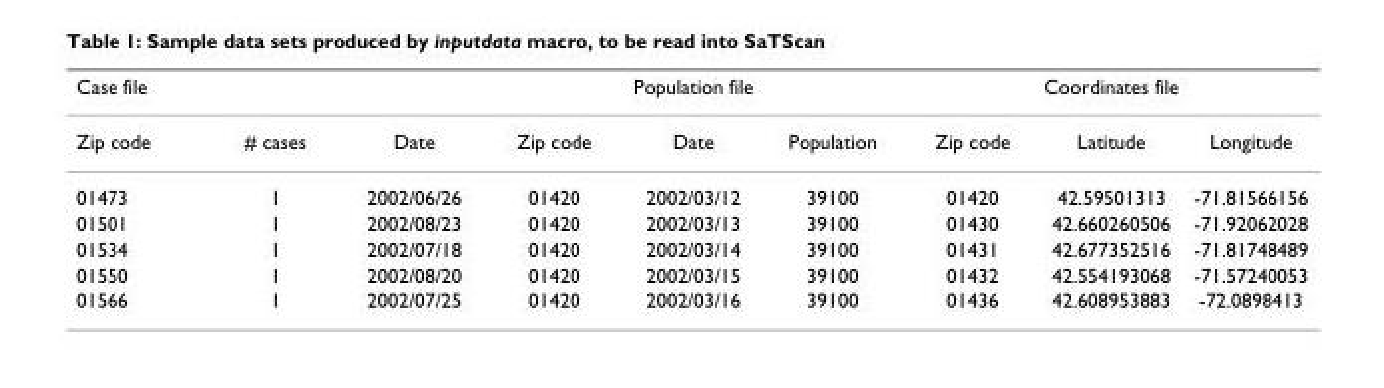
<table><thead><tr><td colspan="3">Case file</td><td colspan="3">Population file</td><td colspan="3">Coordinates file</td></tr><tr><td>Zip code</td><td># cases</td><td>Date</td><td>Zip code</td><td>Date</td><td>Population</td><td>Zip code</td><td>Latitude</td><td>Longitude</td></tr></thead><tbody><tr><td>01473</td><td>1</td><td>2002/06/26</td><td>01420</td><td>2002/03/12</td><td>39100</td><td>01420</td><td>42.59501313</td><td>-71.81566156</td></tr><tr><td>01501</td><td>1</td><td>2002/08/23</td><td>01420</td><td>2002/03/13</td><td>39100</td><td>01430</td><td>42.660260506</td><td>-71.92062028</td></tr><tr><td>01534</td><td>1</td><td>2002/07/18</td><td>01420</td><td>2002/03/14</td><td>39100</td><td>01431</td><td>42.677352516</td><td>-71.81748489</td></tr><tr><td>01550</td><td>1</td><td>2002/08/20</td><td>01420</td><td>2002/03/15</td><td>39100</td><td>01432</td><td>42.554193068</td><td>-71.57240053</td></tr><tr><td>01566</td><td>1</td><td>2002/07/25</td><td>01420</td><td>2002/03/16</td><td>39100</td><td>01436</td><td>42.608953883</td><td>-72.0898413</td></tr></tbody></table>